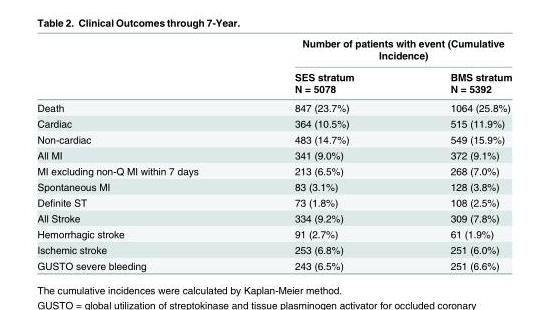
<table><thead><tr><td rowspan="3"></td><td colspan="2">Number of patients with event (Cumulative Incidence)</td></tr><tr><td rowspan="2">SES stratum N = 5078</td><td rowspan="2">BMS stratum N = 5392</td></tr><tr></tr></thead><tbody><tr><td>Death</td><td>847 (23.7%)</td><td>1064 (25.8%)</td></tr><tr><td>Cardiac</td><td>364 (10.5%)</td><td>515 (11.9%)</td></tr><tr><td>Non-cardiac</td><td>483 (14.7%)</td><td>549 (15.9%)</td></tr><tr><td>All MI</td><td>341 (9.0%)</td><td>372 (9.1%)</td></tr><tr><td>MI excluding non-Q MI within 7 days</td><td>213 (6.5%)</td><td>268 (7.0%)</td></tr><tr><td>Spontaneous MI</td><td>83 (3.1%)</td><td>128 (3.8%)</td></tr><tr><td>Definite ST</td><td>73 (1.8%)</td><td>108 (2.5%)</td></tr><tr><td>All Stroke</td><td>334 (9.2%)</td><td>309 (7.8%)</td></tr><tr><td>Hemorrhagic stroke</td><td>91 (2.7%)</td><td>61 (1.9%)</td></tr><tr><td>Ischemic stroke</td><td>253 (6.8%)</td><td>251 (6.0%)</td></tr><tr><td>GUSTO severe bleeding</td><td>243 (6.5%)</td><td>251 (6.6%)</td></tr></tbody></table>